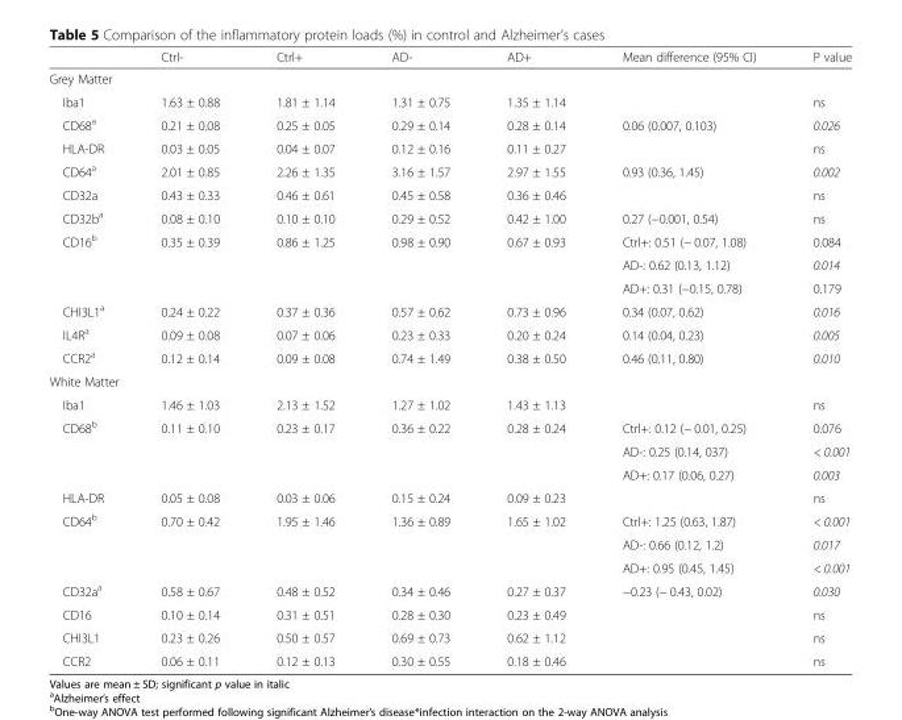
<table><thead><tr><td></td><td>Ctrl-</td><td>Ctrl+</td><td>AD-</td><td>AD+</td><td>Mean difference (95% CI)</td><td>P value</td></tr></thead><tbody><tr><td colspan="7">Grey Matter</td></tr><tr><td>Iba1</td><td>1.63 ± 0.88</td><td>1.81 ± 1.14</td><td>1.31 ± 0.75</td><td>1.35 ± 1.14</td><td></td><td>ns</td></tr><tr><td>CD68<sup>a</sup></td><td>0.21 ± 0.08</td><td>0.25 ± 0.05</td><td>0.29 ± 0.14</td><td>0.28 ± 0.14</td><td>0.06 (0.007, 0.103)</td><td>0.026</td></tr><tr><td>HLA-DR</td><td>0.03 ± 0.05</td><td>0.04 ± 0.07</td><td>0.12 ± 0.16</td><td>0.11 ± 0.27</td><td></td><td>ns</td></tr><tr><td>CD64<sup>a</sup></td><td>2.01 ± 0.85</td><td>2.26 ± 1.35</td><td>3.16 ± 1.57</td><td>2.97 ± 1.55</td><td>0.93 (0.36, 1.45)</td><td>0.002</td></tr><tr><td>CD32a</td><td>0.43 ± 0.33</td><td>0.46 ± 0.61</td><td>0.45 ± 0.58</td><td>0.36 ± 0.46</td><td></td><td>ns</td></tr><tr><td>CD32b<sup>a</sup></td><td>0.08 ± 0.10</td><td>0.10 ± 0.10</td><td>0.29 ± 0.52</td><td>0.42 ± 1.00</td><td>0.27 (−0.001, 0.54)</td><td>ns</td></tr><tr><td rowspan="3">CD16<sup>b</sup></td><td rowspan="3">0.35 ± 0.39</td><td rowspan="3">0.86 ± 1.25</td><td rowspan="3">0.98 ± 0.90</td><td rowspan="3">0.67 ± 0.93</td><td>Ctrl+: 0.51 (− 0.07, 1.08)</td><td>0.084</td></tr><tr><td>AD-: 0.62 (0.13, 1.12)</td><td>0.014</td></tr><tr><td>AD+: 0.31 (−0.15, 0.78)</td><td>0.179</td></tr><tr><td>CHI3L1<sup>a</sup></td><td>0.24 ± 0.22</td><td>0.37 ± 0.36</td><td>0.57 ± 0.62</td><td>0.73 ± 0.96</td><td>0.34 (0.07, 0.62)</td><td>0.016</td></tr><tr><td>IL4R<sup>a</sup></td><td>0.09 ± 0.08</td><td>0.07 ± 0.06</td><td>0.23 ± 0.33</td><td>0.20 ± 0.24</td><td>0.14 (0.04, 0.23)</td><td>0.005</td></tr><tr><td>CCR2<sup>a</sup></td><td>0.12 ± 0.14</td><td>0.09 ± 0.08</td><td>0.74 ± 1.49</td><td>0.38 ± 0.50</td><td>0.46 (0.11, 0.80)</td><td>0.010</td></tr><tr><td colspan="7">White Matter</td></tr><tr><td>Iba1</td><td>1.46 ± 1.03</td><td>2.13 ± 1.52</td><td>1.27 ± 1.02</td><td>1.43 ± 1.13</td><td></td><td>ns</td></tr><tr><td rowspan="3">CD68<sup>b</sup></td><td rowspan="3">0.11 ± 0.10</td><td rowspan="3">0.23 ± 0.17</td><td rowspan="3">0.36 ± 0.22</td><td rowspan="3">0.28 ± 0.24</td><td>Ctrl+: 0.12 (− 0.01, 0.25)</td><td>0.076</td></tr><tr><td>AD-: 0.25 (0.14, 037)</td><td>&lt; 0.001</td></tr><tr><td>AD+: 0.17 (0.06, 0.27)</td><td>0.003</td></tr><tr><td>HLA-DR</td><td>0.05 ± 0.08</td><td>0.03 ± 0.06</td><td>0.15 ± 0.24</td><td>0.09 ± 0.23</td><td></td><td>ns</td></tr><tr><td rowspan="3">CD64<sup>b</sup></td><td rowspan="3">0.70 ± 0.42</td><td rowspan="3">1.95 ± 1.46</td><td rowspan="3">1.36 ± 0.89</td><td rowspan="3">1.65 ± 1.02</td><td>Ctrl+: 1.25 (0.63, 1.87)</td><td>&lt; 0.001</td></tr><tr><td>AD-: 0.66 (0.12, 1.2)</td><td>0.017</td></tr><tr><td>AD+: 0.95 (0.45, 1.45)</td><td>&lt; 0.001</td></tr><tr><td>CD32a<sup>a</sup></td><td>0.58 ± 0.67</td><td>0.48 ± 0.52</td><td>0.34 ± 0.46</td><td>0.27 ± 0.37</td><td>−0.23 (− 0.43, 0.02)</td><td>0.030</td></tr><tr><td>CD16</td><td>0.10 ± 0.14</td><td>0.31 ± 0.51</td><td>0.28 ± 0.30</td><td>0.23 ± 0.49</td><td></td><td>ns</td></tr><tr><td>CHI3L1</td><td>0.23 ± 0.26</td><td>0.50 ± 0.57</td><td>0.69 ± 0.73</td><td>0.62 ± 1.12</td><td></td><td>ns</td></tr><tr><td>CCR2</td><td>0.06 ± 0.11</td><td>0.12 ± 0.13</td><td>0.30 ± 0.55</td><td>0.18 ± 0.46</td><td></td><td>ns</td></tr></tbody></table>